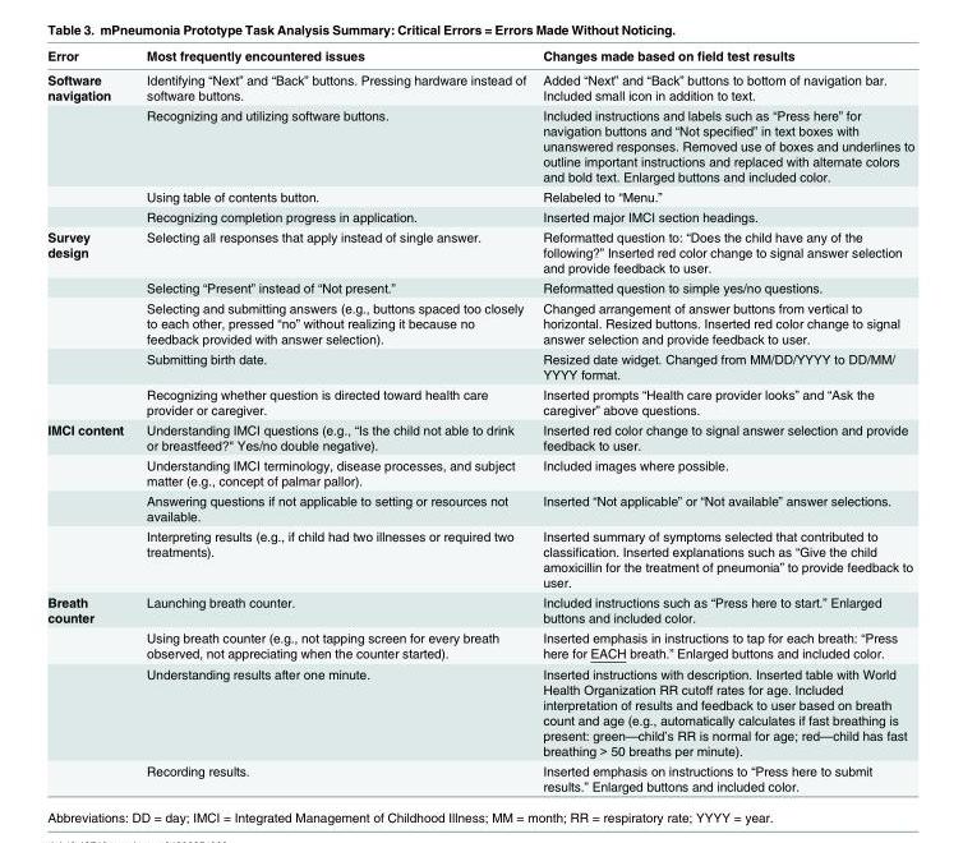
<table><thead><tr><td>Error</td><td>Most frequently encountered issues</td><td>Changes made based on field test results</td></tr></thead><tbody><tr><td rowspan="4">Software navigation</td><td>Identifying “Next” and “Back” buttons. Pressing hardware instead of software buttons.</td><td>Added “Next” and “Back” buttons to bottom of navigation bar. Included small icon in addition to text.</td></tr><tr><td>Recognizing and utilizing software buttons.</td><td>Included instructions and labels such as “Press here” for navigation buttons and “Not specified” in text boxes with unanswered responses. Removed use of boxes and underlines to outline important instructions and replaced with alternate colors and bold text. Enlarged buttons and included color.</td></tr><tr><td>Using table of contents button.</td><td>Relabeled to “Menu.”</td></tr><tr><td>Recognizing completion progress in application.</td><td>Inserted major IMCI section headings.</td></tr><tr><td rowspan="5">Survey design</td><td>Selecting all responses that apply instead of single answer.</td><td>Reformatted question to: “Does the child have any of the following?” Inserted red color change to signal answer selection and provide feedback to user.</td></tr><tr><td>Selecting “Present” instead of “Not present.”</td><td>Reformatted question to simple yes/no questions.</td></tr><tr><td>Selecting and submitting answers (e.g., buttons spaced too closely to each other, pressed “no” without realizing it because no feedback provided with answer selection).</td><td>Changed arrangement of answer buttons from vertical to horizontal. Resized buttons. Inserted red color change to signal answer selection and provide feedback to user.</td></tr><tr><td>Submitting birth date.</td><td>Resized date widget. Changed from MM/DD/YYYY to DD/MM/ YYYY format.</td></tr><tr><td>Recognizing whether question is directed toward health care provider or caregiver.</td><td>Inserted prompts “Health care provider looks” and “Ask the caregiver” above questions.</td></tr><tr><td rowspan="4">IMCI content</td><td>Understanding IMCI questions (e.g., “Is the child not able to drink or breastfeed?&quot; Yes/no double negative).</td><td>Inserted red color change to signal answer selection and provide feedback to user.</td></tr><tr><td>Understanding IMCI terminology, disease processes, and subject matter (e.g., concept of palmar pallor).</td><td>Included images where possible.</td></tr><tr><td>Answering questions if not applicable to setting or resources not available.</td><td>Inserted “Not applicable” or “Not available” answer selections.</td></tr><tr><td>Interpreting results (e.g., if child had two illnesses or required two treatments).</td><td>Inserted summary of symptoms selected that contributed to classification. Inserted explanations such as “Give the child amoxicillin for the treatment of pneumonia” to provide feedback to user.</td></tr><tr><td rowspan="4">Breath counter</td><td>Launching breath counter.</td><td>Included instructions such as “Press here to start.” Enlarged buttons and included color.</td></tr><tr><td>Using breath counter (e.g., not tapping screen for every breath observed, not appreciating when the counter started).</td><td>Inserted emphasis in instructions to tap for each breath: “Press here for EACH breath.” Enlarged buttons and included color.</td></tr><tr><td>Understanding results after one minute.</td><td>Inserted instructions with description. Inserted table with World Health Organization RR cutoff rates for age. Included interpretation of results and feedback to user based on breath count and age (e.g., automatically calculates if fast breathing is present: green—child’s RR is normal for age; red—child has fast breathing &gt; 50 breaths per minute).</td></tr><tr><td>Recording results.</td><td>Inserted emphasis on instructions to “Press here to submit results.” Enlarged buttons and included color.</td></tr></tbody></table>